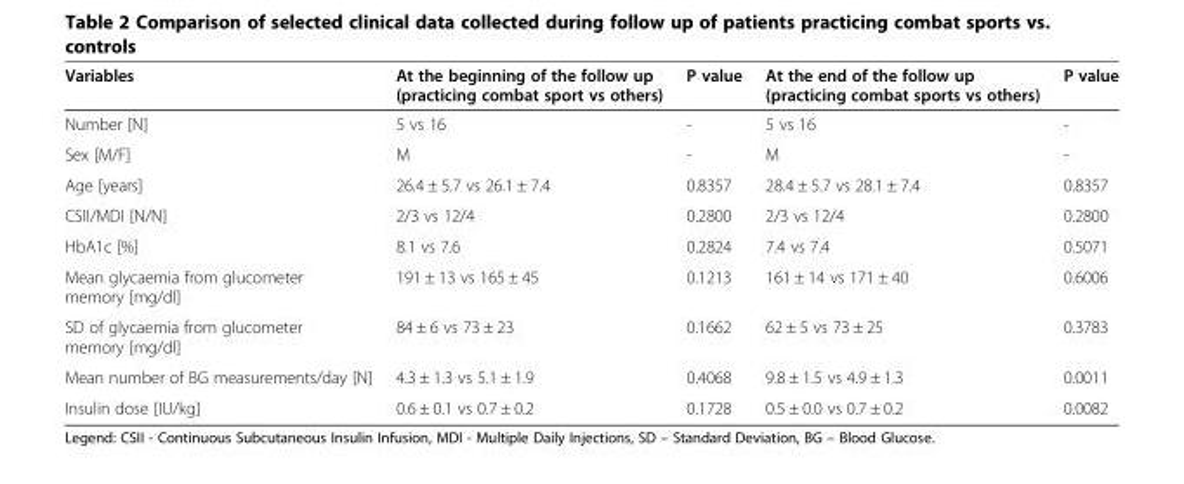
<table><thead><tr><td>Variables</td><td>At the beginning of the follow up (practicing combat sport vs others)</td><td>P value</td><td>At the end of the follow up (practicing combat sports vs others)</td><td>P value</td></tr></thead><tbody><tr><td>Number [N]</td><td>5 vs 16</td><td>-</td><td>5 vs 16</td><td>-</td></tr><tr><td>Sex [M/F]</td><td>M</td><td>-</td><td>M</td><td>-</td></tr><tr><td>Age [years]</td><td>26.4 ± 5.7 vs 26.1 ± 7.4</td><td>0.8357</td><td>28.4 ± 5.7 vs 28.1 ± 7.4</td><td>0.8357</td></tr><tr><td>CSII/MDI [N/N]</td><td>2/3 vs 12/4</td><td>0.2800</td><td>2/3 vs 12/4</td><td>0.2800</td></tr><tr><td>HbA1c [%]</td><td>8.1 vs 7.6</td><td>0.2824</td><td>7.4 vs 7.4</td><td>0.5071</td></tr><tr><td>Mean glycaemia from glucometer memory [mg/dl]</td><td>191 ± 13 vs 165 ± 45</td><td>0.1213</td><td>161 ± 14 vs 171 ± 40</td><td>0.6006</td></tr><tr><td>SD of glycaemia from glucometer memory [mg/dl]</td><td>84 ± 6 vs 73 ± 23</td><td>0.1662</td><td>62 ± 5 vs 73 ± 25</td><td>0.3783</td></tr><tr><td>Mean number of BG measurements/day [N]</td><td>4.3 ± 1.3 vs 5.1 ± 1.9</td><td>0.4068</td><td>9.8 ± 1.5 vs 4.9 ± 1.3</td><td>0.0011</td></tr><tr><td>Insulin dose [IU/kg]</td><td>0.6 ± 0.1 vs 0.7 ± 0.2</td><td>0.1728</td><td>0.5 ± 0.0 vs 0.7 ± 0.2</td><td>0.0082</td></tr></tbody></table>